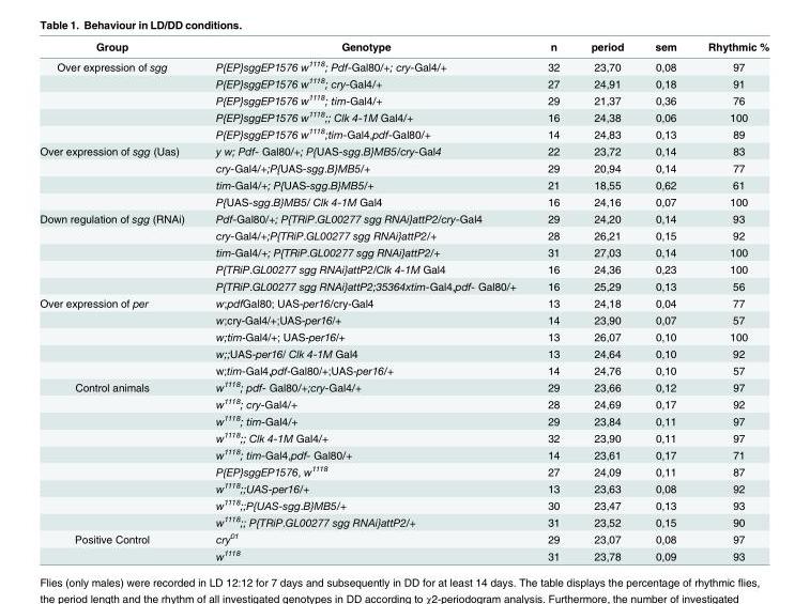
<table><thead><tr><td>Group</td><td>Genotype</td><td>n</td><td>period</td><td>sem</td><td>Rhythmic %</td></tr></thead><tbody><tr><td rowspan="5">Over expression of sgg</td><td>P{EP}sggEP1576 w<sup>1118</sup>; Pdf-Gal80/+; cry-Gal4/+</td><td>32</td><td>23,70</td><td>0,08</td><td>97</td></tr><tr><td>P{EP}sggEP1576 w<sup>1118</sup>; cry-Gal4/+</td><td>27</td><td>24,91</td><td>0,18</td><td>91</td></tr><tr><td>P{EP}sggEP1576 w<sup>1118</sup>; tim-Gal4/+</td><td>29</td><td>21,37</td><td>0,36</td><td>76</td></tr><tr><td>P{EP}sggEP1576 w<sup>1118</sup>;; Clk 4-1M Gal4/+</td><td>16</td><td>24,38</td><td>0,06</td><td>100</td></tr><tr><td>P{EP}sggEP1576 w<sup>1118</sup>;tim-Gal4,pdf-Gal80/+</td><td>14</td><td>24,83</td><td>0,13</td><td>89</td></tr><tr><td rowspan="4">Over expression of sgg (Uas)</td><td>y w; Pdf- Gal80/+; P{UAS-sgg.B}MB5/cry-Gal4</td><td>22</td><td>23,72</td><td>0,14</td><td>83</td></tr><tr><td>cry-Gal4/+;P{UAS-sgg.B}MB5/+</td><td>29</td><td>20,94</td><td>0,14</td><td>77</td></tr><tr><td>tim-Gal4/+; P{UAS-sgg.B}MB5/+</td><td>21</td><td>18,55</td><td>0,62</td><td>61</td></tr><tr><td>P{UAS-sgg.B}MB5/ Clk 4-1M Gal4</td><td>16</td><td>24,16</td><td>0,07</td><td>100</td></tr><tr><td rowspan="5">Down regulation of sgg (RNAi)</td><td>Pdf-Gal80/+; P{TRiP.GL00277 sgg RNAi}attP2/cry-Gal4</td><td>29</td><td>24,20</td><td>0,14</td><td>93</td></tr><tr><td>cry-Gal4/+;P{TRiP.GL00277 sgg RNAi}attP2/+</td><td>28</td><td>26,21</td><td>0,15</td><td>92</td></tr><tr><td>tim-Gal4/+; P{TRiP.GL00277 sgg RNAi}attP2/+</td><td>31</td><td>27,03</td><td>0,14</td><td>100</td></tr><tr><td>P{TRiP.GL00277 sgg RNAi}attP2/Clk 4-1M Gal4</td><td>16</td><td>24,36</td><td>0,23</td><td>100</td></tr><tr><td>P{TRiP.GL00277 sgg RNAi}attP2;35364xtim-Gal4,pdf- Gal80/+</td><td>16</td><td>25,29</td><td>0,13</td><td>56</td></tr><tr><td rowspan="5">Over expression of per</td><td>w;pdfGal80; UAS-per16/cry-Gal4</td><td>13</td><td>24,18</td><td>0,04</td><td>77</td></tr><tr><td>w;cry-Gal4/+;UAS-per16/+</td><td>14</td><td>23,90</td><td>0,07</td><td>57</td></tr><tr><td>w;tim-Gal4/+; UAS-per16/+</td><td>13</td><td>26,07</td><td>0,10</td><td>100</td></tr><tr><td>w;;UAS-per16/ Clk 4-1M Gal4</td><td>13</td><td>24,64</td><td>0,10</td><td>92</td></tr><tr><td>w;tim-Gal4,pdf-Gal80/+;UAS-per16/+</td><td>14</td><td>24,76</td><td>0,10</td><td>57</td></tr><tr><td rowspan="9">Control animals</td><td>w<sup>1118</sup>; pdf- Gal80/+;cry-Gal4/+</td><td>29</td><td>23,66</td><td>0,12</td><td>97</td></tr><tr><td>w<sup>1118</sup>; cry-Gal4/+</td><td>28</td><td>24,69</td><td>0,17</td><td>92</td></tr><tr><td>w<sup>1118</sup>; tim-Gal4/+</td><td>29</td><td>23,84</td><td>0,11</td><td>97</td></tr><tr><td>w<sup>1118</sup>;; Clk 4-1M Gal4/+</td><td>32</td><td>23,90</td><td>0,11</td><td>97</td></tr><tr><td>w<sup>1118</sup>; tim-Gal4,pdf- Gal80/+</td><td>14</td><td>23,61</td><td>0,17</td><td>71</td></tr><tr><td>P{EP}sggEP1576, w<sup>1118</sup></td><td>27</td><td>24,09</td><td>0,11</td><td>87</td></tr><tr><td>w<sup>1118</sup>;;UAS-per16/+</td><td>13</td><td>23,63</td><td>0,08</td><td>92</td></tr><tr><td>w<sup>1118</sup>;;P{UAS-sgg.B}MB5/+</td><td>30</td><td>23,47</td><td>0,13</td><td>93</td></tr><tr><td>w<sup>1118</sup>;; P{TRiP.GL00277 sgg RNAi}attP2/+</td><td>31</td><td>23,52</td><td>0,15</td><td>90</td></tr><tr><td rowspan="2">Positive Control</td><td>cry<sup>01</sup></td><td>29</td><td>23,07</td><td>0,08</td><td>97</td></tr><tr><td>w<sup>1118</sup></td><td>31</td><td>23,78</td><td>0,09</td><td>93</td></tr></tbody></table>